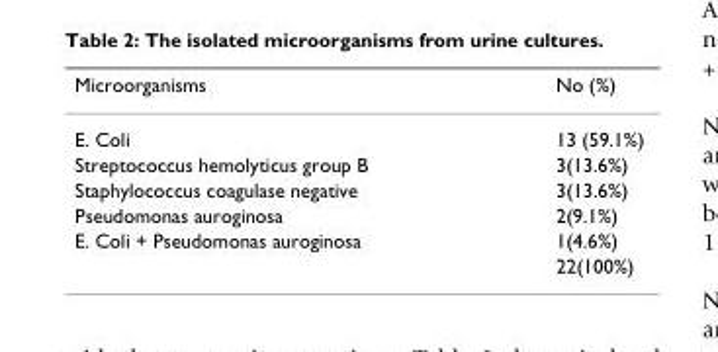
<table><thead><tr><td>Microorganisms</td><td>No (%)</td></tr></thead><tbody><tr><td>E. Coli</td><td>13 (59.1%)</td></tr><tr><td>Streptococcus hemolyticus group B</td><td>3(13.6%)</td></tr><tr><td>Staphylococcus coagulase negative</td><td>3(13.6%)</td></tr><tr><td>Pseudomonas auroginosa</td><td>2(9.1%)</td></tr><tr><td rowspan="2">E. Coli + Pseudomonas auroginosa</td><td>1(4.6%)</td></tr><tr><td>22(100%)</td></tr></tbody></table>